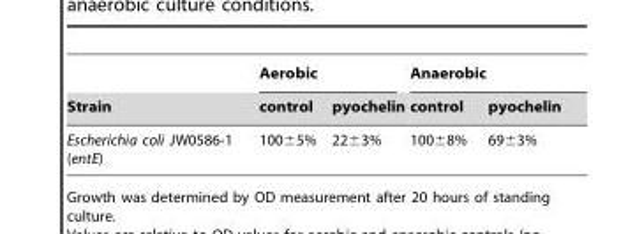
<table><thead><tr><td rowspan="2">Strain</td><td colspan="2">Aerobic</td><td colspan="2">Anaerobic</td></tr><tr><td>control</td><td>pyochelin</td><td>control</td><td>pyochelin</td></tr></thead><tbody><tr><td>Escherichia coli JW0586-1 (entE)</td><td>100±5%</td><td>22±3%</td><td>100±8%</td><td>69±3%</td></tr></tbody></table>